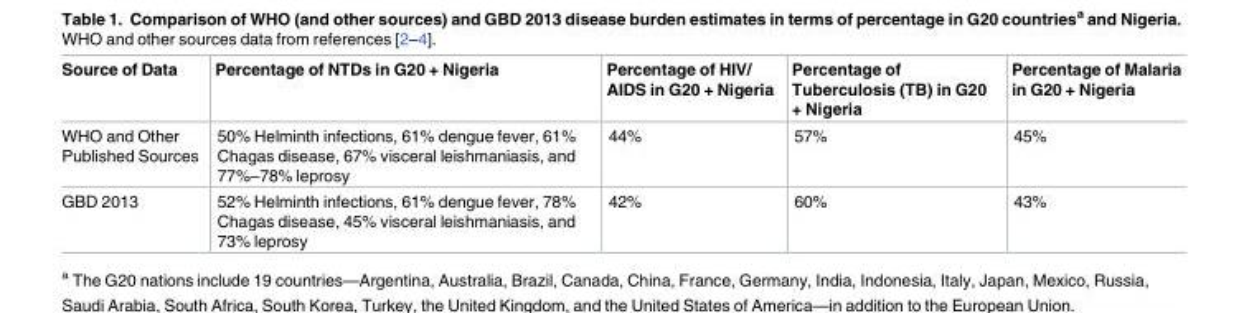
<table><thead><tr><td>Source of Data</td><td>Percentage of NTDs in G20 + Nigeria</td><td>Percentage of HIV/ AIDS in G20 + Nigeria</td><td>Percentage of Tuberculosis (TB) in G20 + Nigeria</td><td>Percentage of Malaria in G20 + Nigeria</td></tr></thead><tbody><tr><td>WHO and Other Published Sources</td><td>50% Helminth infections, 61% dengue fever, 61% Chagas disease, 67% visceral leishmaniasis, and 77%–78% leprosy</td><td>44%</td><td>57%</td><td>45%</td></tr><tr><td>GBD 2013</td><td>52% Helminth infections, 61% dengue fever, 78% Chagas disease, 45% visceral leishmaniasis, and 73% leprosy</td><td>42%</td><td>60%</td><td>43%</td></tr></tbody></table>